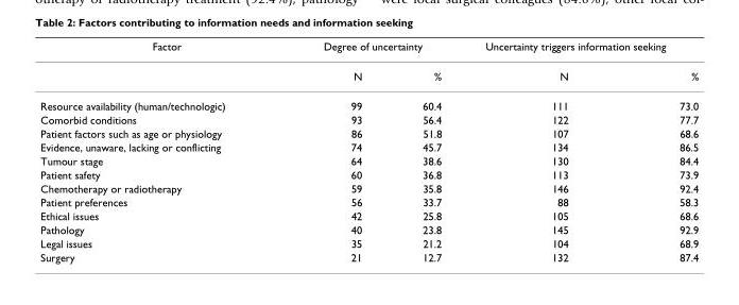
<table><thead><tr><td rowspan="2">Factor</td><td colspan="2">Degree of uncertainty</td><td colspan="2">Uncertainty triggers information seeking</td></tr><tr><td>N</td><td>%</td><td>N</td><td>%</td></tr></thead><tbody><tr><td>Resource availability (human/technologic)</td><td>99</td><td>60.4</td><td>111</td><td>73.0</td></tr><tr><td>Comorbid conditions</td><td>93</td><td>56.4</td><td>122</td><td>77.7</td></tr><tr><td>Patient factors such as age or physiology</td><td>86</td><td>51.8</td><td>107</td><td>68.6</td></tr><tr><td>Evidence, unaware, lacking or conflicting</td><td>74</td><td>45.7</td><td>134</td><td>86.5</td></tr><tr><td>Tumour stage</td><td>64</td><td>38.6</td><td>130</td><td>84.4</td></tr><tr><td>Patient safety</td><td>60</td><td>36.8</td><td>113</td><td>73.9</td></tr><tr><td>Chemotherapy or radiotherapy</td><td>59</td><td>35.8</td><td>146</td><td>92.4</td></tr><tr><td>Patient preferences</td><td>56</td><td>33.7</td><td>88</td><td>58.3</td></tr><tr><td>Ethical issues</td><td>42</td><td>25.8</td><td>105</td><td>68.6</td></tr><tr><td>Pathology</td><td>40</td><td>23.8</td><td>145</td><td>92.9</td></tr><tr><td>Legal issues</td><td>35</td><td>21.2</td><td>104</td><td>68.9</td></tr><tr><td>Surgery</td><td>21</td><td>12.7</td><td>132</td><td>87.4</td></tr></tbody></table>